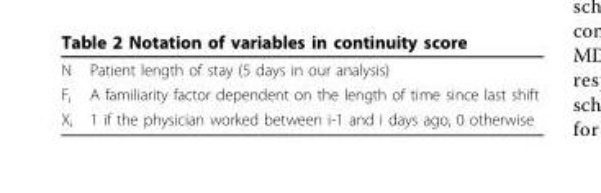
<table><tbody><tr><td>N</td><td>Patient length of stay (5 days in our analysis)</td></tr><tr><td>F<sub>i</sub></td><td>A familiarity factor dependent on the length of time since last shift</td></tr><tr><td>X<sub>i</sub></td><td>1 if the physician worked between i-1 and i days ago, 0 otherwise</td></tr></tbody></table>